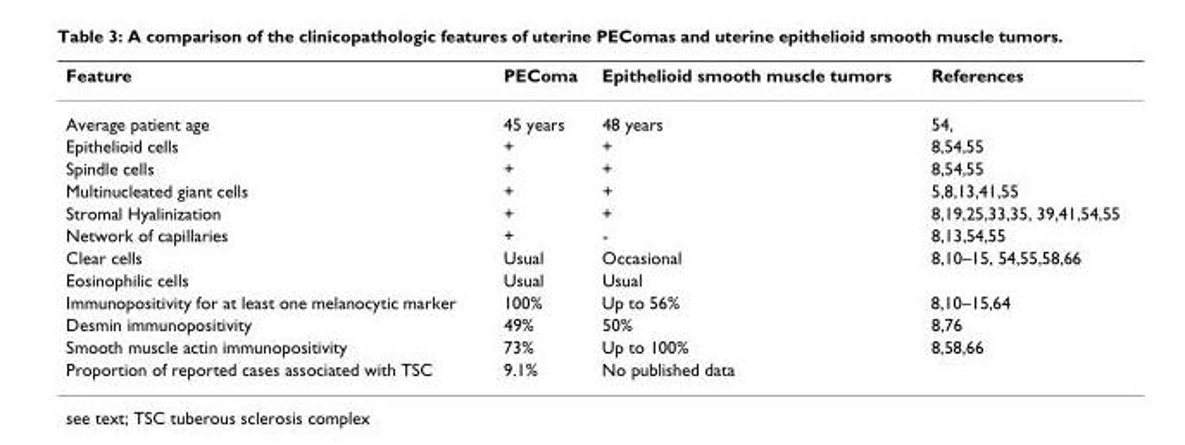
<table><thead><tr><td>Feature</td><td>PEComa</td><td>Epithelioid smooth muscle tumors</td><td>References</td></tr></thead><tbody><tr><td>Average patient age</td><td>45 years</td><td>48 years</td><td>54,</td></tr><tr><td>Epithelioid cells</td><td>+</td><td>+</td><td>8,54,55</td></tr><tr><td>Spindle cells</td><td>+</td><td>+</td><td>8,54,55</td></tr><tr><td>Multinucleated giant cells</td><td>+</td><td>+</td><td>5,8,13,41,55</td></tr><tr><td>Stromal Hyalinization</td><td>+</td><td>+</td><td>8,19,25,33,35, 39,41,54,55</td></tr><tr><td>Network of capillaries</td><td>+</td><td>-</td><td>8,13,54,55</td></tr><tr><td>Clear cells</td><td>Usual</td><td>Occasional</td><td>8,10–15, 54,55,58,66</td></tr><tr><td>Eosinophilic cells</td><td>Usual</td><td>Usual</td><td></td></tr><tr><td>Immunopositivity for at least one melanocytic marker</td><td>100%</td><td>Up to 56%</td><td>8,10–15,64</td></tr><tr><td>Desmin immunopositivity</td><td>49%</td><td>50%</td><td>8,76</td></tr><tr><td>Smooth muscle actin immunopositivity</td><td>73%</td><td>Up to 100%</td><td>8,58,66</td></tr><tr><td>Proportion of reported cases associated with TSC</td><td>9.1%</td><td>No published data</td><td></td></tr></tbody></table>